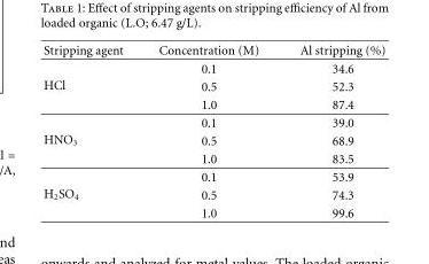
<table><thead><tr><td>Stripping agent</td><td>Concentration (M)</td><td>Al stripping (%)</td></tr></thead><tbody><tr><td rowspan="3">HCl</td><td>0.1</td><td>34.6</td></tr><tr><td>0.5</td><td>52.3</td></tr><tr><td>1.0</td><td>87.4</td></tr><tr><td rowspan="3">HNO<sub>3</sub></td><td>0.1</td><td>39.0</td></tr><tr><td>0.5</td><td>68.9</td></tr><tr><td>1.0</td><td>83.5</td></tr><tr><td rowspan="3">H<sub>2</sub>SO<sub>4</sub></td><td>0.1</td><td>53.9</td></tr><tr><td>0.5</td><td>74.3</td></tr><tr><td>1.0</td><td>99.6</td></tr></tbody></table>